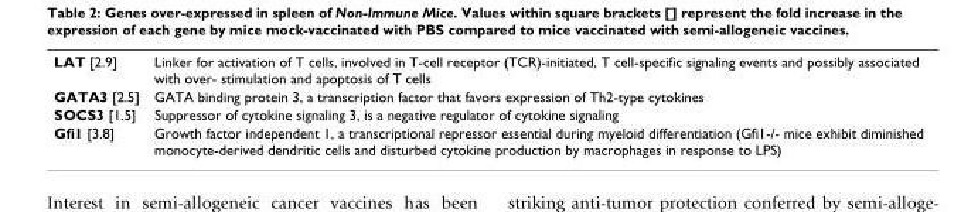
<table><tbody><tr><td>LAT [2.9]</td><td>Linker for activation of T cells, involved in T-cell receptor (TCR)-initiated, T cell-specific signaling events and possibly associated with over- stimulation and apoptosis of T cells</td></tr><tr><td>GATA3 [2.5]</td><td>GATA binding protein 3, a transcription factor that favors expression of Th2-type cytokines</td></tr><tr><td>SOCS3 [1.5]</td><td>Suppressor of cytokine signaling 3, is a negative regulator of cytokine signaling</td></tr><tr><td>Gfi1 [3.8]</td><td>Growth factor independent 1, a transcriptional repressor essential during myeloid differentiation (Gfi1-/- mice exhibit diminished monocyte-derived dendritic cells and disturbed cytokine production by macrophages in response to LPS)</td></tr></tbody></table>